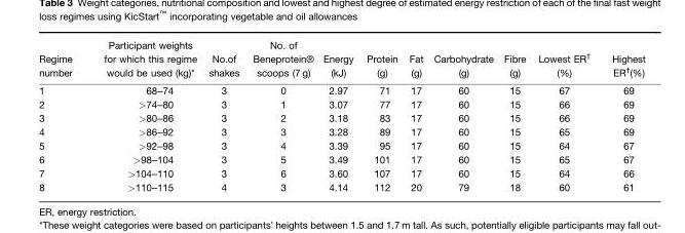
<table><thead><tr><td>Regime number</td><td>Participant weights for which this regime would be used (kg)*</td><td>No.of shakes</td><td>No. of Beneprotein® scoops (7 g)</td><td>Energy (kJ)</td><td>Protein (g)</td><td>Fat (g)</td><td>Carbohydrate (g)</td><td>Fibre (g)</td><td>Lowest ER† (%)</td><td>Highest ER†(%)</td></tr></thead><tbody><tr><td>1</td><td>68–74</td><td>3</td><td>0</td><td>2.97</td><td>71</td><td>17</td><td>60</td><td>15</td><td>67</td><td>69</td></tr><tr><td>2</td><td>&gt;74–80</td><td>3</td><td>1</td><td>3.07</td><td>77</td><td>17</td><td>60</td><td>15</td><td>66</td><td>69</td></tr><tr><td>3</td><td>&gt;80–86</td><td>3</td><td>2</td><td>3.18</td><td>83</td><td>17</td><td>60</td><td>15</td><td>66</td><td>69</td></tr><tr><td>4</td><td>&gt;86–92</td><td>3</td><td>3</td><td>3.28</td><td>89</td><td>17</td><td>60</td><td>15</td><td>65</td><td>69</td></tr><tr><td>5</td><td>&gt;92–98</td><td>3</td><td>4</td><td>3.39</td><td>95</td><td>17</td><td>60</td><td>15</td><td>64</td><td>67</td></tr><tr><td>6</td><td>&gt;98–104</td><td>3</td><td>5</td><td>3.49</td><td>101</td><td>17</td><td>60</td><td>15</td><td>65</td><td>67</td></tr><tr><td>7</td><td>&gt;104–110</td><td>3</td><td>6</td><td>3.60</td><td>107</td><td>17</td><td>60</td><td>15</td><td>64</td><td>66</td></tr><tr><td>8</td><td>&gt;110–115</td><td>4</td><td>3</td><td>4.14</td><td>112</td><td>20</td><td>79</td><td>18</td><td>60</td><td>61</td></tr></tbody></table>